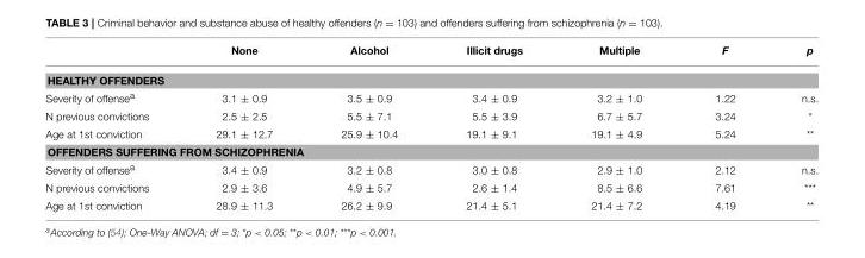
<table><thead><tr><td></td><td>None</td><td>Alcohol</td><td>Illicit drugs</td><td>Multiple</td><td>F</td><td>p</td></tr></thead><tbody><tr><td colspan="7">HEALTHY OFFENDERS</td></tr><tr><td>Severity of offense<sup>a</sup></td><td>3.1 ± 0.9</td><td>3.5 ± 0.9</td><td>3.4 ± 0.9</td><td>3.2 ± 1.0</td><td>1.22</td><td>n.s.</td></tr><tr><td>N previous convictions</td><td>2.5 ± 2.5</td><td>5.5 ± 7.1</td><td>5.5 ± 3.9</td><td>6.7 ± 5.7</td><td>3.24</td><td>*</td></tr><tr><td>Age at 1st conviction</td><td>29.1 ± 12.7</td><td>25.9 ± 10.4</td><td>19.1 ± 9.1</td><td>19.1 ± 4.9</td><td>5.24</td><td>**</td></tr><tr><td colspan="7">OFFENDERS SUFFERING FROM SCHIZOPHRENIA</td></tr><tr><td>Severity of offense<sup>a</sup></td><td>3.4 ± 0.9</td><td>3.2 ± 0.8</td><td>3.0 ± 0.8</td><td>2.9 ± 1.0</td><td>2.12</td><td>n.s.</td></tr><tr><td>N previous convictions</td><td>2.9 ± 3.6</td><td>4.9 ± 5.7</td><td>2.6 ± 1.4</td><td>8.5 ± 6.6</td><td>7.61</td><td>***</td></tr><tr><td>Age at 1st conviction</td><td>28.9 ± 11.3</td><td>26.2 ± 9.9</td><td>21.4 ± 5.1</td><td>21.4 ± 7.2</td><td>4.19</td><td>**</td></tr></tbody></table>